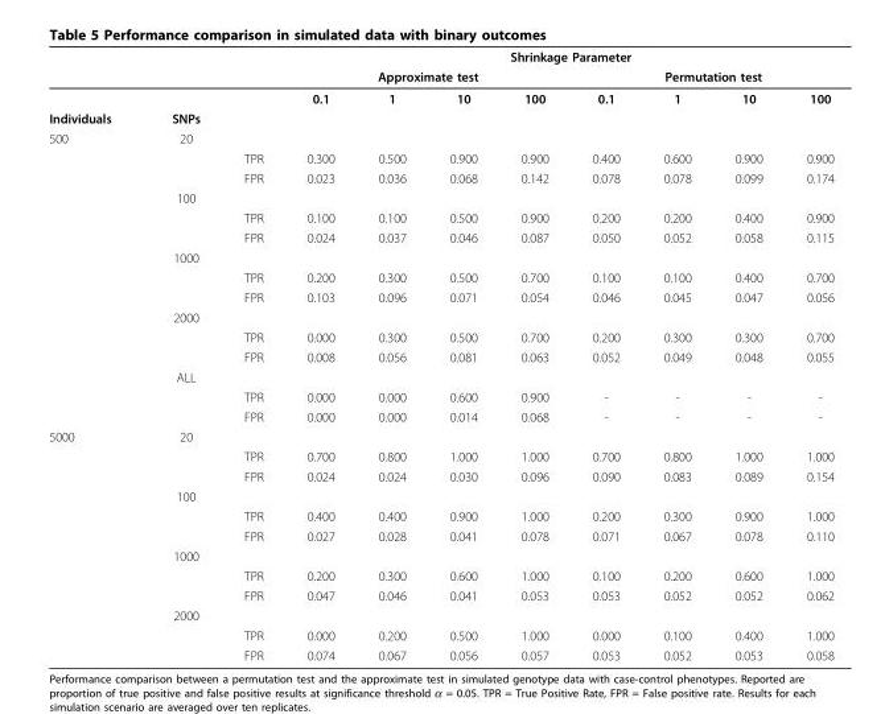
<table><thead><tr><td rowspan="3"></td><td rowspan="3"></td><td rowspan="3"></td><td colspan="8">Shrinkage Parameter</td></tr><tr><td colspan="4">Approximate test</td><td colspan="4">Permutation test</td></tr><tr><td>0.1</td><td>1</td><td>10</td><td>100</td><td>0.1</td><td>1</td><td>10</td><td>100</td></tr></thead><tbody><tr><td>Individuals</td><td>SNPs</td><td></td><td></td><td></td><td></td><td></td><td></td><td></td><td></td><td></td></tr><tr><td rowspan="15">500</td><td>20</td><td></td><td></td><td></td><td></td><td></td><td></td><td></td><td></td><td></td></tr><tr><td></td><td>TPR</td><td>0.300</td><td>0.500</td><td>0.900</td><td>0.900</td><td>0.400</td><td>0.600</td><td>0.900</td><td>0.900</td></tr><tr><td></td><td>FPR</td><td>0.023</td><td>0.036</td><td>0.068</td><td>0.142</td><td>0.078</td><td>0.078</td><td>0.099</td><td>0.174</td></tr><tr><td>100</td><td></td><td></td><td></td><td></td><td></td><td></td><td></td><td></td><td></td></tr><tr><td></td><td>TPR</td><td>0.100</td><td>0.100</td><td>0.500</td><td>0.900</td><td>0.200</td><td>0.200</td><td>0.400</td><td>0.900</td></tr><tr><td></td><td>FPR</td><td>0.024</td><td>0.037</td><td>0.046</td><td>0.087</td><td>0.050</td><td>0.052</td><td>0.058</td><td>0.115</td></tr><tr><td>1000</td><td></td><td></td><td></td><td></td><td></td><td></td><td></td><td></td><td></td></tr><tr><td></td><td>TPR</td><td>0.200</td><td>0.300</td><td>0.500</td><td>0.700</td><td>0.100</td><td>0.100</td><td>0.400</td><td>0.700</td></tr><tr><td></td><td>FPR</td><td>0.103</td><td>0.096</td><td>0.071</td><td>0.054</td><td>0.046</td><td>0.045</td><td>0.047</td><td>0.056</td></tr><tr><td>2000</td><td></td><td></td><td></td><td></td><td></td><td></td><td></td><td></td><td></td></tr><tr><td></td><td>TPR</td><td>0.000</td><td>0.300</td><td>0.500</td><td>0.700</td><td>0.200</td><td>0.300</td><td>0.300</td><td>0.700</td></tr><tr><td></td><td>FPR</td><td>0.008</td><td>0.056</td><td>0.081</td><td>0.063</td><td>0.052</td><td>0.049</td><td>0.048</td><td>0.055</td></tr><tr><td>ALL</td><td></td><td></td><td></td><td></td><td></td><td></td><td></td><td></td><td></td></tr><tr><td></td><td>TPR</td><td>0.000</td><td>0.000</td><td>0.600</td><td>0.900</td><td>-</td><td>-</td><td>-</td><td>-</td></tr><tr><td></td><td>FPR</td><td>0.000</td><td>0.000</td><td>0.014</td><td>0.068</td><td>-</td><td>-</td><td>-</td><td>-</td></tr><tr><td rowspan="12">5000</td><td>20</td><td></td><td></td><td></td><td></td><td></td><td></td><td></td><td></td><td></td></tr><tr><td></td><td>TPR</td><td>0.700</td><td>0.800</td><td>1.000</td><td>1.000</td><td>0.700</td><td>0.800</td><td>1.000</td><td>1.000</td></tr><tr><td></td><td>FPR</td><td>0.024</td><td>0.024</td><td>0.030</td><td>0.096</td><td>0.090</td><td>0.083</td><td>0.089</td><td>0.154</td></tr><tr><td>100</td><td></td><td></td><td></td><td></td><td></td><td></td><td></td><td></td><td></td></tr><tr><td></td><td>TPR</td><td>0.400</td><td>0.400</td><td>0.900</td><td>1.000</td><td>0.200</td><td>0.300</td><td>0.900</td><td>1.000</td></tr><tr><td></td><td>FPR</td><td>0.027</td><td>0.028</td><td>0.041</td><td>0.078</td><td>0.071</td><td>0.067</td><td>0.078</td><td>0.110</td></tr><tr><td>1000</td><td></td><td></td><td></td><td></td><td></td><td></td><td></td><td></td><td></td></tr><tr><td></td><td>TPR</td><td>0.200</td><td>0.300</td><td>0.600</td><td>1.000</td><td>0.100</td><td>0.200</td><td>0.600</td><td>1.000</td></tr><tr><td></td><td>FPR</td><td>0.047</td><td>0.046</td><td>0.041</td><td>0.053</td><td>0.053</td><td>0.052</td><td>0.052</td><td>0.062</td></tr><tr><td>2000</td><td></td><td></td><td></td><td></td><td></td><td></td><td></td><td></td><td></td></tr><tr><td></td><td>TPR</td><td>0.000</td><td>0.200</td><td>0.500</td><td>1.000</td><td>0.000</td><td>0.100</td><td>0.400</td><td>1.000</td></tr><tr><td></td><td>FPR</td><td>0.074</td><td>0.067</td><td>0.056</td><td>0.057</td><td>0.053</td><td>0.052</td><td>0.053</td><td>0.058</td></tr></tbody></table>